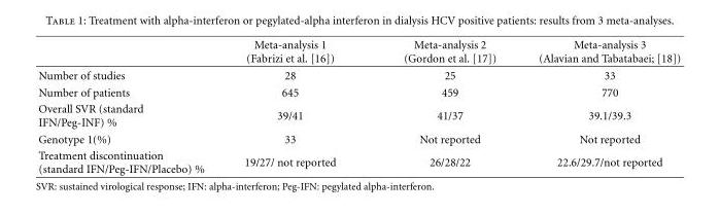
<table><thead><tr><td></td><td>Meta-analysis 1 (Fabrizi et al. [16])</td><td>Meta-analysis 2 (Gordon et al. [17])</td><td>Meta-analysis 3 (Alavian and Tabatabaei; [18])</td></tr></thead><tbody><tr><td>Number of studies</td><td>28</td><td>25</td><td>33</td></tr><tr><td>Number of patients</td><td>645</td><td>459</td><td>770</td></tr><tr><td>Overall SVR (standard IFN/Peg-INF) %</td><td>39/41</td><td>41/37</td><td>39.1/39.3</td></tr><tr><td>Genotype 1(%)</td><td>33</td><td>Not reported</td><td>Not reported</td></tr><tr><td>Treatment discontinuation (standard IFN/Peg-IFN/Placebo) %</td><td>19/27/ not reported</td><td>26/28/22</td><td>22.6/29.7/not reported</td></tr></tbody></table>